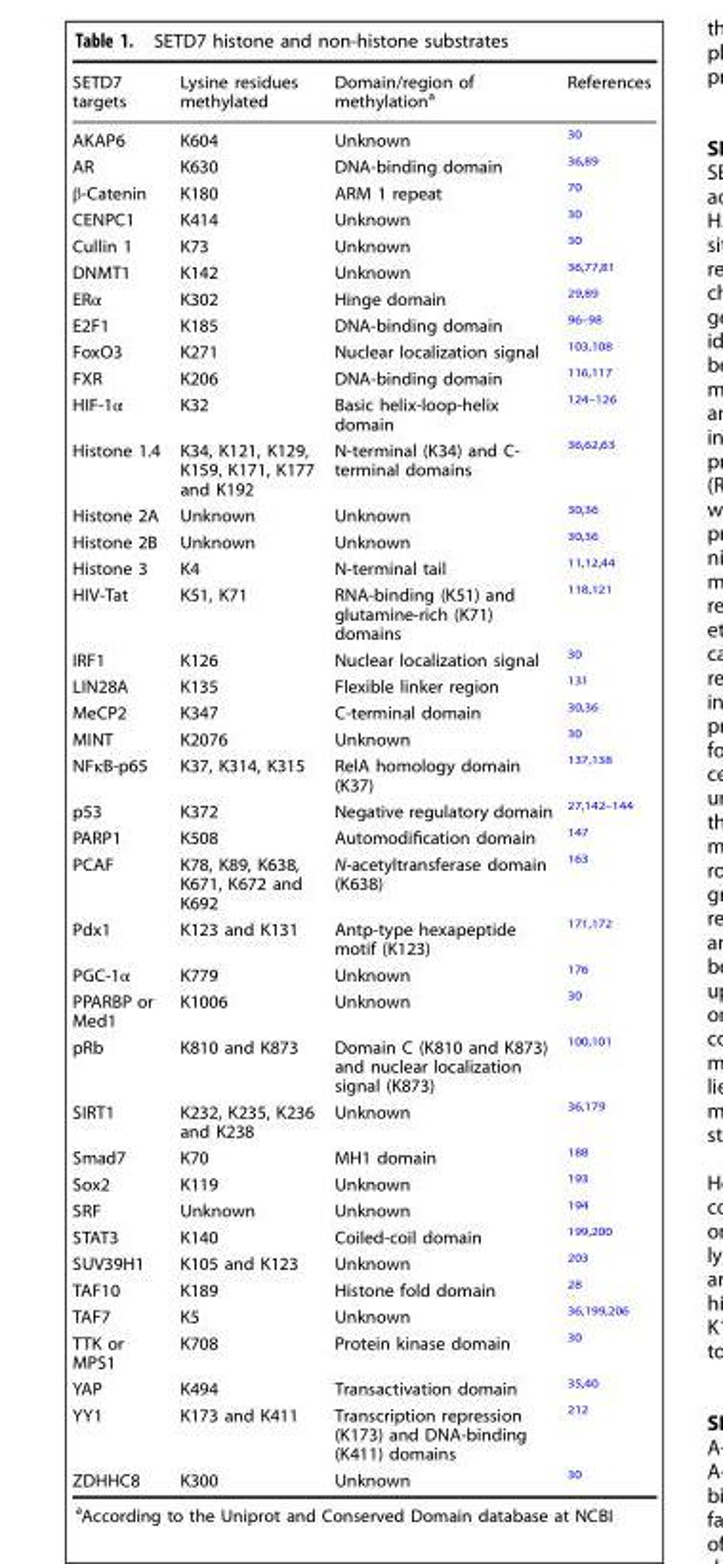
<table><thead><tr><td>SETD7 targets</td><td>Lysine residues methylated</td><td>Domain/region of methylation<sup>a</sup></td><td>References</td></tr></thead><tbody><tr><td>AKAP6</td><td>K604</td><td>Unknown</td><td><sup>30</sup></td></tr><tr><td>AR</td><td>K630</td><td>DNA-binding domain</td><td><sup>36,89</sup></td></tr><tr><td>β-Catenin</td><td>K180</td><td>ARM 1 repeat</td><td><sup>70</sup></td></tr><tr><td>CENPC1</td><td>K414</td><td>Unknown</td><td><sup>30</sup></td></tr><tr><td>Cullin 1</td><td>K73</td><td>Unknown</td><td><sup>30</sup></td></tr><tr><td>DNMT1</td><td>K142</td><td>Unknown</td><td><sup>36,77,81</sup></td></tr><tr><td>ERα</td><td>K302</td><td>Hinge domain</td><td><sup>29,89</sup></td></tr><tr><td>E2F1</td><td>K185</td><td>DNA-binding domain</td><td><sup>96–98</sup></td></tr><tr><td>FoxO3</td><td>K271</td><td>Nuclear localization signal</td><td><sup>103,108</sup></td></tr><tr><td>FXR</td><td>K206</td><td>DNA-binding domain</td><td><sup>116,117</sup></td></tr><tr><td>HIF-1α</td><td>K32</td><td>Basic helix-loop-helix domain</td><td><sup>124–126</sup></td></tr><tr><td>Histone 1.4</td><td>K34, K121, K129, K159, K171, K177 and K192</td><td>N-terminal (K34) and C- terminal domains</td><td><sup>36,62,63</sup></td></tr><tr><td>Histone 2A</td><td>Unknown</td><td>Unknown</td><td><sup>30,36</sup></td></tr><tr><td>Histone 2B</td><td>Unknown</td><td>Unknown</td><td><sup>30,36</sup></td></tr><tr><td>Histone 3</td><td>K4</td><td>N-terminal tail</td><td><sup>11,12,44</sup></td></tr><tr><td>HIV-Tat</td><td>K51, K71</td><td>RNA-binding (K51) and glutamine-rich (K71) domains</td><td><sup>118,121</sup></td></tr><tr><td>IRF1</td><td>K126</td><td>Nuclear localization signal</td><td><sup>30</sup></td></tr><tr><td>LIN28A</td><td>K135</td><td>Flexible linker region</td><td><sup>131</sup></td></tr><tr><td>MeCP2</td><td>K347</td><td>C-terminal domain</td><td><sup>30,36</sup></td></tr><tr><td>MINT</td><td>K2076</td><td>Unknown</td><td><sup>30</sup></td></tr><tr><td>NFκB-p65</td><td>K37, K314, K315</td><td>RelA homology domain (K37)</td><td><sup>137,138</sup></td></tr><tr><td>p53</td><td>K372</td><td>Negative regulatory domain</td><td><sup>27,142–144</sup></td></tr><tr><td>PARP1</td><td>K508</td><td>Automodification domain</td><td><sup>147</sup></td></tr><tr><td>PCAF</td><td>K78, K89, K638, K671, K672 and K692</td><td>N-acetyltransferase domain (K638)</td><td><sup>163</sup></td></tr><tr><td>Pdx1</td><td>K123 and K131</td><td>Antp-type hexapeptide motif (K123)</td><td><sup>171,172</sup></td></tr><tr><td>PGC-1α</td><td>K779</td><td>Unknown</td><td><sup>176</sup></td></tr><tr><td>PPARBP or Med1</td><td>K1006</td><td>Unknown</td><td><sup>30</sup></td></tr><tr><td>pRb</td><td>K810 and K873</td><td>Domain C (K810 and K873) and nuclear localization signal (K873)</td><td><sup>100,101</sup></td></tr><tr><td>SIRT1</td><td>K232, K235, K236 and K238</td><td>Unknown</td><td><sup>36,179</sup></td></tr><tr><td>Smad7</td><td>K70</td><td>MH1 domain</td><td><sup>188</sup></td></tr><tr><td>Sox2</td><td>K119</td><td>Unknown</td><td><sup>193</sup></td></tr><tr><td>SRF</td><td>Unknown</td><td>Unknown</td><td><sup>194</sup></td></tr><tr><td>STAT3</td><td>K140</td><td>Coiled-coil domain</td><td><sup>199,200</sup></td></tr><tr><td>SUV39H1</td><td>K105 and K123</td><td>Unknown</td><td><sup>203</sup></td></tr><tr><td>TAF10</td><td>K189</td><td>Histone fold domain</td><td><sup>28</sup></td></tr><tr><td>TAF7</td><td>K5</td><td>Unknown</td><td><sup>36,199,206</sup></td></tr><tr><td>TTK or MPS1</td><td>K708</td><td>Protein kinase domain</td><td><sup>30</sup></td></tr><tr><td>YAP</td><td>K494</td><td>Transactivation domain</td><td><sup>35,40</sup></td></tr><tr><td>YY1</td><td>K173 and K411</td><td>Transcription repression (K173) and DNA-binding (K411) domains</td><td><sup>212</sup></td></tr><tr><td>ZDHHC8</td><td>K300</td><td>Unknown</td><td><sup>30</sup></td></tr></tbody></table>